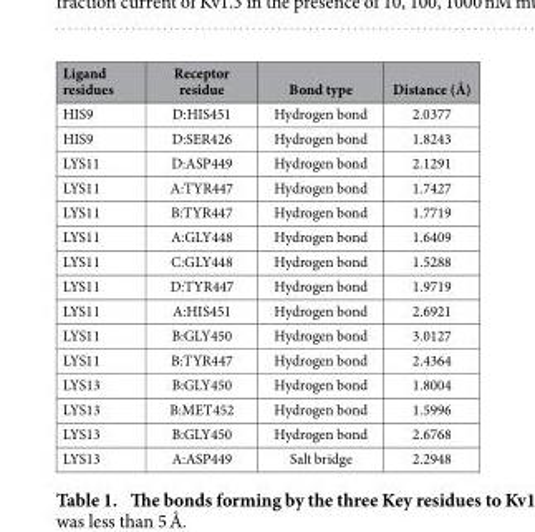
<table><thead><tr><td>Ligand residues</td><td>Receptor residue</td><td>Bond type</td><td>Distance (Å)</td></tr></thead><tbody><tr><td>HIS9</td><td>D:HIS451</td><td>Hydrogen bond</td><td>2.0377</td></tr><tr><td>HIS9</td><td>D:SER426</td><td>Hydrogen bond</td><td>1.8243</td></tr><tr><td>LYS11</td><td>D:ASP449</td><td>Hydrogen bond</td><td>2.1291</td></tr><tr><td>LYS11</td><td>A:TYR447</td><td>Hydrogen bond</td><td>1.7427</td></tr><tr><td>LYS11</td><td>B:TYR447</td><td>Hydrogen bond</td><td>1.7719</td></tr><tr><td>LYS11</td><td>A:GLY448</td><td>Hydrogen bond</td><td>1.6409</td></tr><tr><td>LYS11</td><td>C:GLY448</td><td>Hydrogen bond</td><td>1.5288</td></tr><tr><td>LYS11</td><td>D:TYR447</td><td>Hydrogen bond</td><td>1.9719</td></tr><tr><td>LYS11</td><td>A:HIS451</td><td>Hydrogen bond</td><td>2.6921</td></tr><tr><td>LYS11</td><td>B:GLY450</td><td>Hydrogen bond</td><td>3.0127</td></tr><tr><td>LYS11</td><td>B:TYR447</td><td>Hydrogen bond</td><td>2.4364</td></tr><tr><td>LYS13</td><td>B:GLY450</td><td>Hydrogen bond</td><td>1.8004</td></tr><tr><td>LYS13</td><td>B:MET452</td><td>Hydrogen bond</td><td>1.5996</td></tr><tr><td>LYS13</td><td>B:GLY450</td><td>Hydrogen bond</td><td>2.6768</td></tr><tr><td>LYS13</td><td>A:ASP449</td><td>Salt bridge</td><td>2.2948</td></tr></tbody></table>